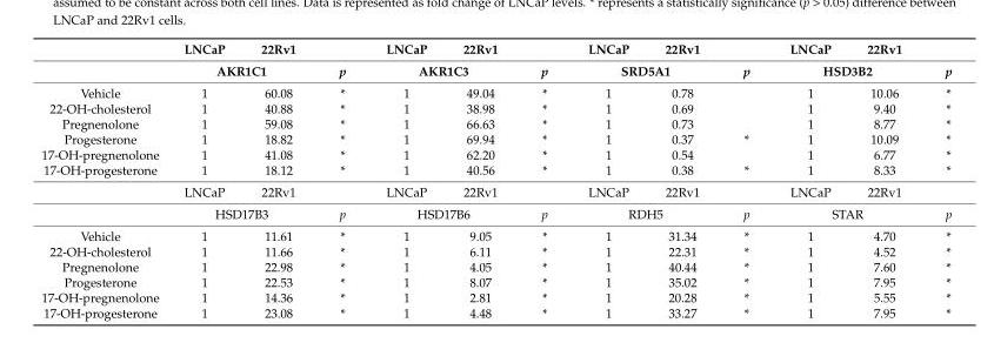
<table><thead><tr><td rowspan="2"></td><td>LNCaP</td><td>22Rv1</td><td rowspan="2">p</td><td>LNCaP</td><td>22Rv1</td><td rowspan="2">p</td><td>LNCaP</td><td>22Rv1</td><td rowspan="2">p</td><td>LNCaP</td><td>22Rv1</td><td rowspan="2">p</td></tr><tr><td colspan="2">AKR1C1</td><td colspan="2">AKR1C3</td><td colspan="2">SRD5A1</td><td colspan="2">HSD3B2</td></tr></thead><tbody><tr><td>Vehicle</td><td>1</td><td>60.08</td><td>*</td><td>1</td><td>49.04</td><td>*</td><td>1</td><td>0.78</td><td></td><td>1</td><td>10.06</td><td>*</td></tr><tr><td>22-OH-cholesterol</td><td>1</td><td>40.88</td><td>*</td><td>1</td><td>38.98</td><td>*</td><td>1</td><td>0.69</td><td></td><td>1</td><td>9.40</td><td>*</td></tr><tr><td>Pregnenolone</td><td>1</td><td>59.08</td><td>*</td><td>1</td><td>66.63</td><td>*</td><td>1</td><td>0.73</td><td></td><td>1</td><td>8.77</td><td>*</td></tr><tr><td>Progesterone</td><td>1</td><td>18.82</td><td>*</td><td>1</td><td>69.94</td><td>*</td><td>1</td><td>0.37</td><td>*</td><td>1</td><td>10.09</td><td>*</td></tr><tr><td>17-OH-pregnenolone</td><td>1</td><td>41.08</td><td>*</td><td>1</td><td>62.20</td><td>*</td><td>1</td><td>0.54</td><td></td><td>1</td><td>6.77</td><td>*</td></tr><tr><td rowspan="3">17-OH-progesterone</td><td>1</td><td>18.12</td><td>*</td><td>1</td><td>40.56</td><td>*</td><td>1</td><td>0.38</td><td>*</td><td>1</td><td>8.33</td><td>*</td></tr><tr><td>LNCaP</td><td>22Rv1</td><td></td><td>LNCaP</td><td>22Rv1</td><td></td><td>LNCaP</td><td>22Rv1</td><td></td><td>LNCaP</td><td>22Rv1</td><td></td></tr><tr><td colspan="2">HSD17B3</td><td>p</td><td colspan="2">HSD17B6</td><td>p</td><td colspan="2">RDH5</td><td>p</td><td colspan="2">STAR</td><td>p</td></tr><tr><td>Vehicle</td><td>1</td><td>11.61</td><td>*</td><td>1</td><td>9.05</td><td>*</td><td>1</td><td>31.34</td><td>*</td><td>1</td><td>4.70</td><td>*</td></tr><tr><td>22-OH-cholesterol</td><td>1</td><td>11.66</td><td>*</td><td>1</td><td>6.11</td><td>*</td><td>1</td><td>22.31</td><td>*</td><td>1</td><td>4.52</td><td>*</td></tr><tr><td>Pregnenolone</td><td>1</td><td>22.98</td><td>*</td><td>1</td><td>4.05</td><td>*</td><td>1</td><td>40.44</td><td>*</td><td>1</td><td>7.60</td><td>*</td></tr><tr><td>Progesterone</td><td>1</td><td>22.53</td><td>*</td><td>1</td><td>8.07</td><td>*</td><td>1</td><td>35.02</td><td>*</td><td>1</td><td>7.95</td><td>*</td></tr><tr><td>17-OH-pregnenolone</td><td>1</td><td>14.36</td><td>*</td><td>1</td><td>2.81</td><td>*</td><td>1</td><td>20.28</td><td>*</td><td>1</td><td>5.55</td><td>*</td></tr><tr><td>17-OH-progesterone</td><td>1</td><td>23.08</td><td>*</td><td>1</td><td>4.48</td><td>*</td><td>1</td><td>33.27</td><td>*</td><td>1</td><td>7.95</td><td>*</td></tr></tbody></table>